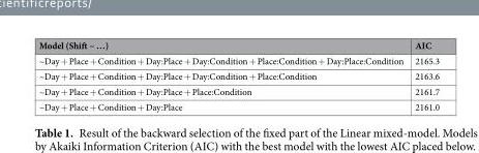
<table><thead><tr><td>Model (Shift ~ …)</td><td>AIC</td></tr></thead><tbody><tr><td>~Day + Place + Condition + Day:Place + Day:Condition + Place:Condition + Day:Place:Condition</td><td>2165.3</td></tr><tr><td>~Day + Place + Condition + Day:Place + Day:Condition + Place:Condition</td><td>2163.6</td></tr><tr><td>~Day + Place + Condition + Day:Place + Place:Condition</td><td>2161.7</td></tr><tr><td>~Day + Place + Condition + Day:Place</td><td>2161.0</td></tr></tbody></table>